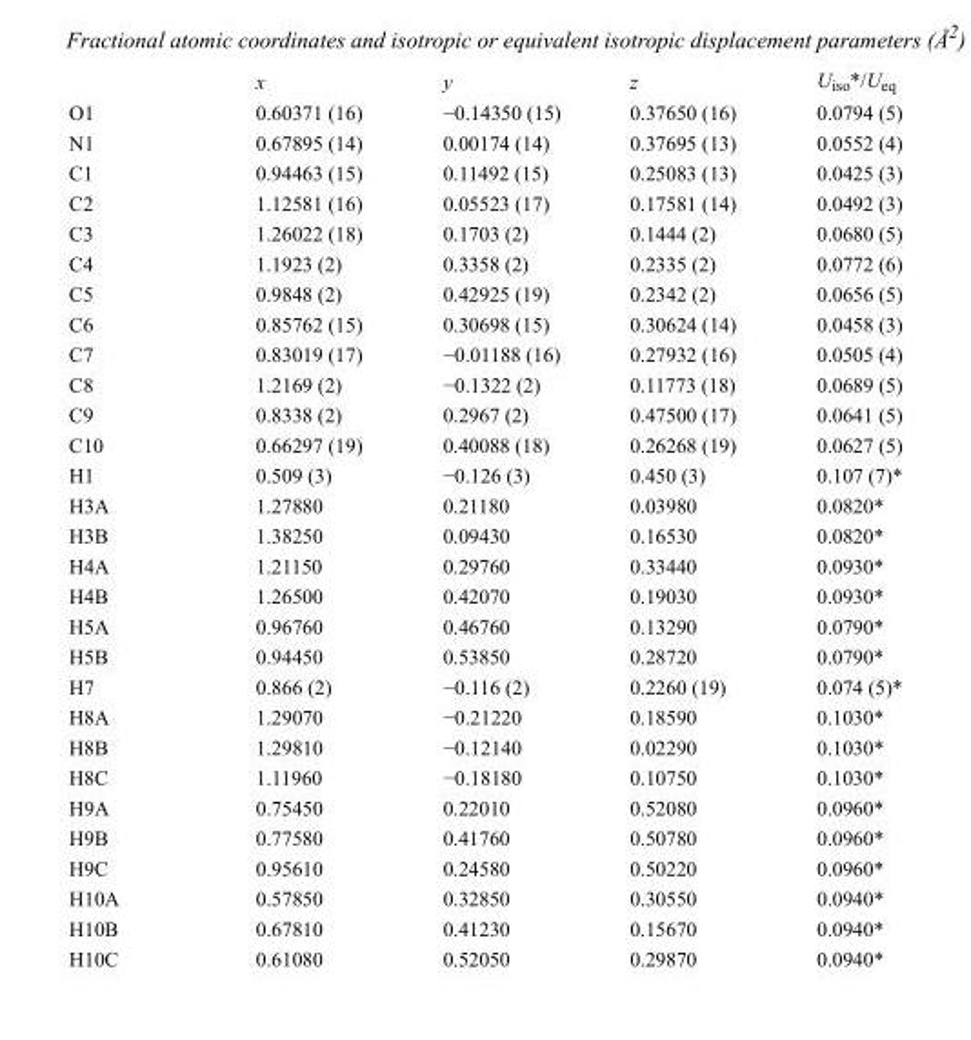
<table><thead><tr><td></td><td>x</td><td>y</td><td>z</td><td>U<sub>iso</sub>*/U<sub>eq</sub></td></tr></thead><tbody><tr><td>O1</td><td>0.60371 (16)</td><td>−0.14350 (15)</td><td>0.37650 (16)</td><td>0.0794 (5)</td></tr><tr><td>N1</td><td>0.67895 (14)</td><td>0.00174 (14)</td><td>0.37695 (13)</td><td>0.0552 (4)</td></tr><tr><td>C1</td><td>0.94463 (15)</td><td>0.11492 (15)</td><td>0.25083 (13)</td><td>0.0425 (3)</td></tr><tr><td>C2</td><td>1.12581 (16)</td><td>0.05523 (17)</td><td>0.17581 (14)</td><td>0.0492 (3)</td></tr><tr><td>C3</td><td>1.26022 (18)</td><td>0.1703 (2)</td><td>0.1444 (2)</td><td>0.0680 (5)</td></tr><tr><td>C4</td><td>1.1923 (2)</td><td>0.3358 (2)</td><td>0.2335 (2)</td><td>0.0772 (6)</td></tr><tr><td>C5</td><td>0.9848 (2)</td><td>0.42925 (19)</td><td>0.2342 (2)</td><td>0.0656 (5)</td></tr><tr><td>C6</td><td>0.85762 (15)</td><td>0.30698 (15)</td><td>0.30624 (14)</td><td>0.0458 (3)</td></tr><tr><td>C7</td><td>0.83019 (17)</td><td>−0.01188 (16)</td><td>0.27932 (16)</td><td>0.0505 (4)</td></tr><tr><td>C8</td><td>1.2169 (2)</td><td>−0.1322 (2)</td><td>0.11773 (18)</td><td>0.0689 (5)</td></tr><tr><td>C9</td><td>0.8338 (2)</td><td>0.2967 (2)</td><td>0.47500 (17)</td><td>0.0641 (5)</td></tr><tr><td>C10</td><td>0.66297 (19)</td><td>0.40088 (18)</td><td>0.26268 (19)</td><td>0.0627 (5)</td></tr><tr><td>H1</td><td>0.509 (3)</td><td>−0.126 (3)</td><td>0.450 (3)</td><td>0.107 (7)*</td></tr><tr><td>H3A</td><td>1.27880</td><td>0.21180</td><td>0.03980</td><td>0.0820*</td></tr><tr><td>H3B</td><td>1.38250</td><td>0.09430</td><td>0.16530</td><td>0.0820*</td></tr><tr><td>H4A</td><td>1.21150</td><td>0.29760</td><td>0.33440</td><td>0.0930*</td></tr><tr><td>H4B</td><td>1.26500</td><td>0.42070</td><td>0.19030</td><td>0.0930*</td></tr><tr><td>H5A</td><td>0.96760</td><td>0.46760</td><td>0.13290</td><td>0.0790*</td></tr><tr><td>H5B</td><td>0.94450</td><td>0.53850</td><td>0.28720</td><td>0.0790*</td></tr><tr><td>H7</td><td>0.866 (2)</td><td>−0.116 (2)</td><td>0.2260 (19)</td><td>0.074 (5)*</td></tr><tr><td>H8A</td><td>1.29070</td><td>−0.21220</td><td>0.18590</td><td>0.1030*</td></tr><tr><td>H8B</td><td>1.29810</td><td>−0.12140</td><td>0.02290</td><td>0.1030*</td></tr><tr><td>H8C</td><td>1.11960</td><td>−0.18180</td><td>0.10750</td><td>0.1030*</td></tr><tr><td>H9A</td><td>0.75450</td><td>0.22010</td><td>0.52080</td><td>0.0960*</td></tr><tr><td>H9B</td><td>0.77580</td><td>0.41760</td><td>0.50780</td><td>0.0960*</td></tr><tr><td>H9C</td><td>0.95610</td><td>0.24580</td><td>0.50220</td><td>0.0960*</td></tr><tr><td>H10A</td><td>0.57850</td><td>0.32850</td><td>0.30550</td><td>0.0940*</td></tr><tr><td>H10B</td><td>0.67810</td><td>0.41230</td><td>0.15670</td><td>0.0940*</td></tr><tr><td>H10C</td><td>0.61080</td><td>0.52050</td><td>0.29870</td><td>0.0940*</td></tr></tbody></table>